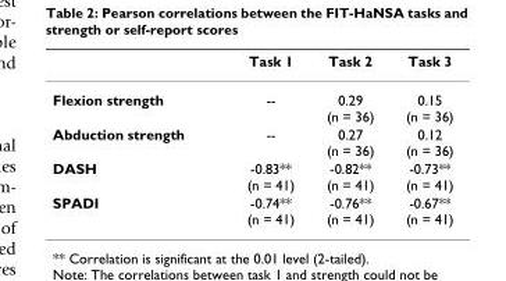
<table><thead><tr><td></td><td>Task 1</td><td>Task 2</td><td>Task 3</td></tr></thead><tbody><tr><td>Flexion strength</td><td>--</td><td>0.29 (n = 36)</td><td>0.15 (n = 36)</td></tr><tr><td>Abduction strength</td><td>--</td><td>0.27 (n = 36)</td><td>0.12 (n = 36)</td></tr><tr><td>DASH</td><td>-0.83** (n = 41)</td><td>-0.82** (n = 41)</td><td>-0.73** (n = 41)</td></tr><tr><td>SPADI</td><td>-0.74** (n = 41)</td><td>-0.76** (n = 41)</td><td>-0.67** (n = 41)</td></tr></tbody></table>